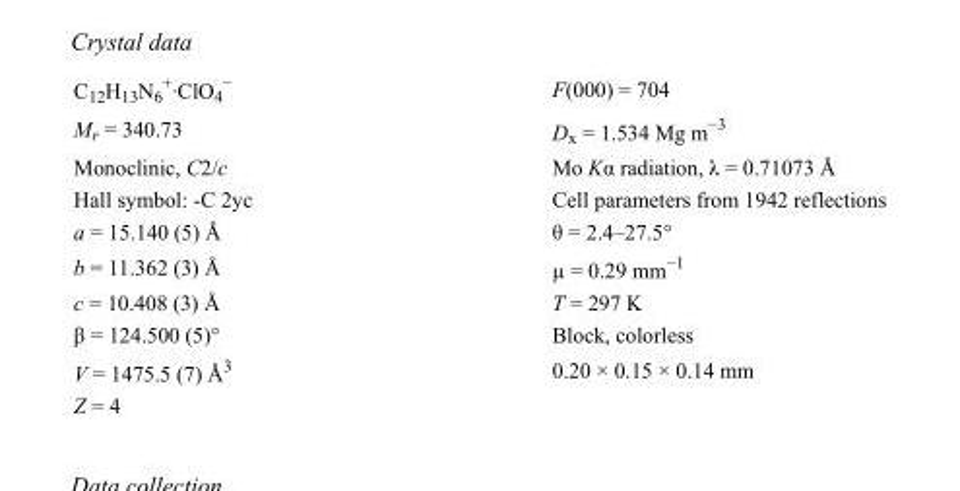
<table><tbody><tr><td>C<sub>12</sub>H<sub>13</sub>N<sub>6</sub> <sup>+</sup>·ClO<sub>4</sub> <sup>−</sup></td><td>F(000) = 704</td></tr><tr><td>M<sub>r</sub> = 340.73</td><td>D<sub>x</sub> = 1.534 Mg m<sup>−3</sup></td></tr><tr><td>Monoclinic, C2/c</td><td>Mo Kα radiation, λ = 0.71073 Å</td></tr><tr><td>Hall symbol: -C 2yc</td><td>Cell parameters from 1942 reflections</td></tr><tr><td>a = 15.140 (5) Å</td><td>θ = 2.4–27.5°</td></tr><tr><td>b = 11.362 (3) Å</td><td>µ = 0.29 mm<sup>−1</sup></td></tr><tr><td>c = 10.408 (3) Å</td><td>T = 297 K</td></tr><tr><td>β = 124.500 (5)°</td><td>Block, colorless</td></tr><tr><td>V = 1475.5 (7) Å<sup>3</sup></td><td>0.20 × 0.15 × 0.14 mm</td></tr><tr><td>Z = 4</td><td></td></tr></tbody></table>